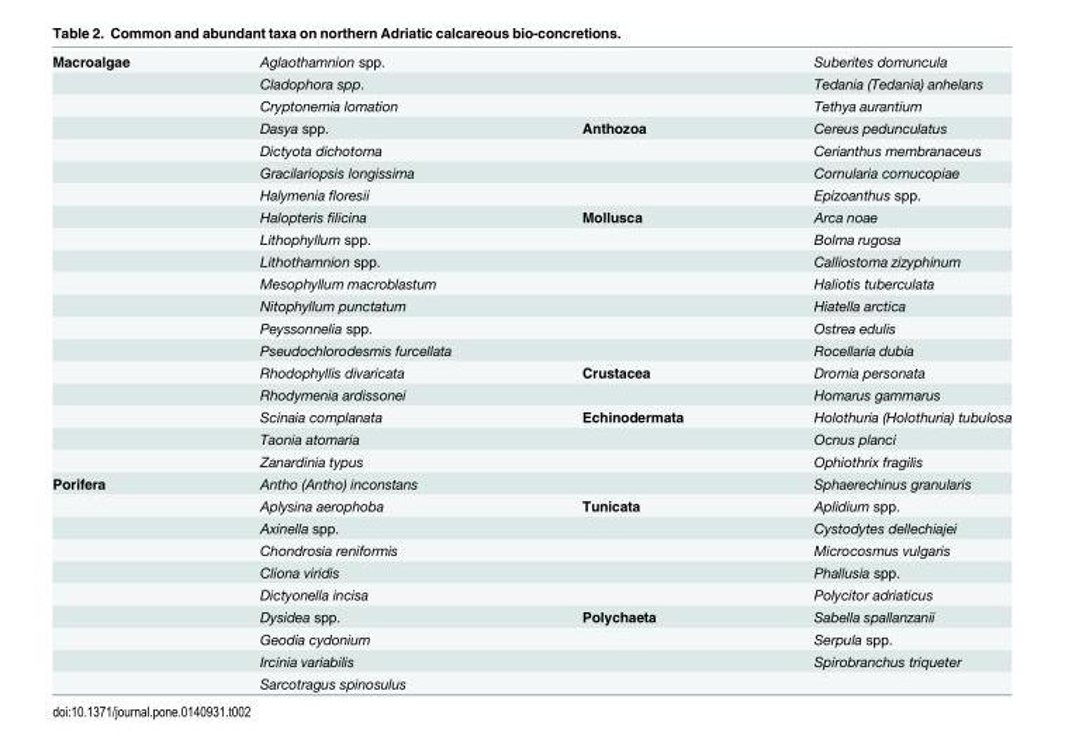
<table><tbody><tr><td rowspan="19">Macroalgae</td><td>Aglaothamnion spp.</td><td></td><td>Suberites domuncula</td></tr><tr><td>Cladophora spp.</td><td></td><td>Tedania (Tedania) anhelans</td></tr><tr><td>Cryptonemia lomation</td><td></td><td>Tethya aurantium</td></tr><tr><td>Dasya spp.</td><td>Anthozoa</td><td>Cereus pedunculatus</td></tr><tr><td>Dictyota dichotoma</td><td></td><td>Cerianthus membranaceus</td></tr><tr><td>Gracilariopsis longissima</td><td></td><td>Cornularia cornucopiae</td></tr><tr><td>Halymenia floresii</td><td></td><td>Epizoanthus spp.</td></tr><tr><td>Halopteris filicina</td><td>Mollusca</td><td>Arca noae</td></tr><tr><td>Lithophyllum spp.</td><td></td><td>Bolma rugosa</td></tr><tr><td>Lithothamnion spp.</td><td></td><td>Calliostoma zizyphinum</td></tr><tr><td>Mesophyllum macroblastum</td><td></td><td>Haliotis tuberculata</td></tr><tr><td>Nitophyllum punctatum</td><td></td><td>Hiatella arctica</td></tr><tr><td>Peyssonnelia spp.</td><td></td><td>Ostrea edulis</td></tr><tr><td>Pseudochlorodesmis furcellata</td><td></td><td>Rocellaria dubia</td></tr><tr><td>Rhodophyllis divaricata</td><td>Crustacea</td><td>Dromia personata</td></tr><tr><td>Rhodymenia ardissonei</td><td></td><td>Homarus gammarus</td></tr><tr><td>Scinaia complanata</td><td>Echinodermata</td><td>Holothuria (Holothuria) tubulosa</td></tr><tr><td>Taonia atomaria</td><td></td><td>Ocnus planci</td></tr><tr><td>Zanardinia typus</td><td></td><td>Ophiothrix fragilis</td></tr><tr><td rowspan="10">Porifera</td><td>Antho (Antho) inconstans</td><td></td><td>Sphaerechinus granularis</td></tr><tr><td>Aplysina aerophoba</td><td>Tunicata</td><td>Aplidium spp.</td></tr><tr><td>Axinella spp.</td><td></td><td>Cystodytes dellechiajei</td></tr><tr><td>Chondrosia reniformis</td><td></td><td>Microcosmus vulgaris</td></tr><tr><td>Cliona viridis</td><td></td><td>Phallusia spp.</td></tr><tr><td>Dictyonella incisa</td><td></td><td>Polycitor adriaticus</td></tr><tr><td>Dysidea spp.</td><td>Polychaeta</td><td>Sabella spallanzanii</td></tr><tr><td>Geodia cydonium</td><td></td><td>Serpula spp.</td></tr><tr><td>Ircinia variabilis</td><td></td><td>Spirobranchus triqueter</td></tr><tr><td>Sarcotragus spinosulus</td><td></td><td></td></tr></tbody></table>